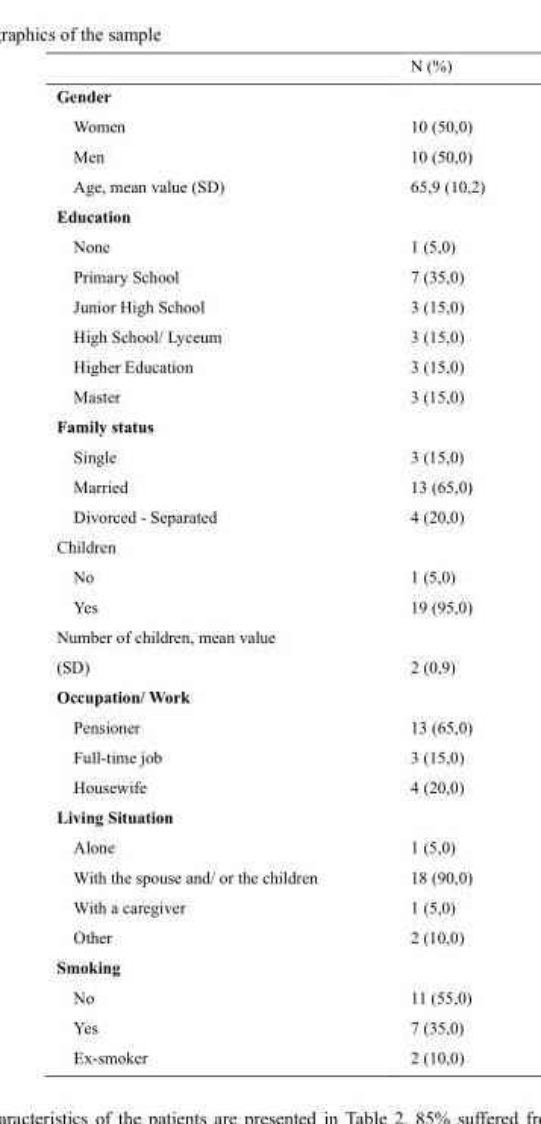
<table><thead><tr><td></td><td>N (%)</td></tr></thead><tbody><tr><td colspan="2">Gender</td></tr><tr><td>Women</td><td>10 (50,0)</td></tr><tr><td>Men</td><td>10 (50,0)</td></tr><tr><td>Age, mean value (SD)</td><td>65,9 (10,2)</td></tr><tr><td colspan="2">Education</td></tr><tr><td>None</td><td>1 (5,0)</td></tr><tr><td>Primary School</td><td>7 (35,0)</td></tr><tr><td>Junior High School</td><td>3 (15,0)</td></tr><tr><td>High School/ Lyceum</td><td>3 (15,0)</td></tr><tr><td>Higher Education</td><td>3 (15,0)</td></tr><tr><td>Master</td><td>3 (15,0)</td></tr><tr><td colspan="2">Family status</td></tr><tr><td>Single</td><td>3 (15,0)</td></tr><tr><td>Married</td><td>13 (65,0)</td></tr><tr><td>Divorced - Separated</td><td>4 (20,0)</td></tr><tr><td colspan="2">Children</td></tr><tr><td>No</td><td>1 (5,0)</td></tr><tr><td>Yes</td><td>19 (95,0)</td></tr><tr><td>Number of children, mean value (SD)</td><td>2 (0,9)</td></tr><tr><td colspan="2">Occupation/ Work</td></tr><tr><td>Pensioner</td><td>13 (65,0)</td></tr><tr><td>Full-time job</td><td>3 (15,0)</td></tr><tr><td>Housewife</td><td>4 (20,0)</td></tr><tr><td colspan="2">Living Situation</td></tr><tr><td>Alone</td><td>1 (5,0)</td></tr><tr><td>With the spouse and/ or the children</td><td>18 (90,0)</td></tr><tr><td>With a caregiver</td><td>1 (5,0)</td></tr><tr><td>Other</td><td>2 (10,0)</td></tr><tr><td colspan="2">Smoking</td></tr><tr><td>No</td><td>11 (55,0)</td></tr><tr><td>Yes</td><td>7 (35,0)</td></tr><tr><td>Ex-smoker</td><td>2 (10,0)</td></tr></tbody></table>